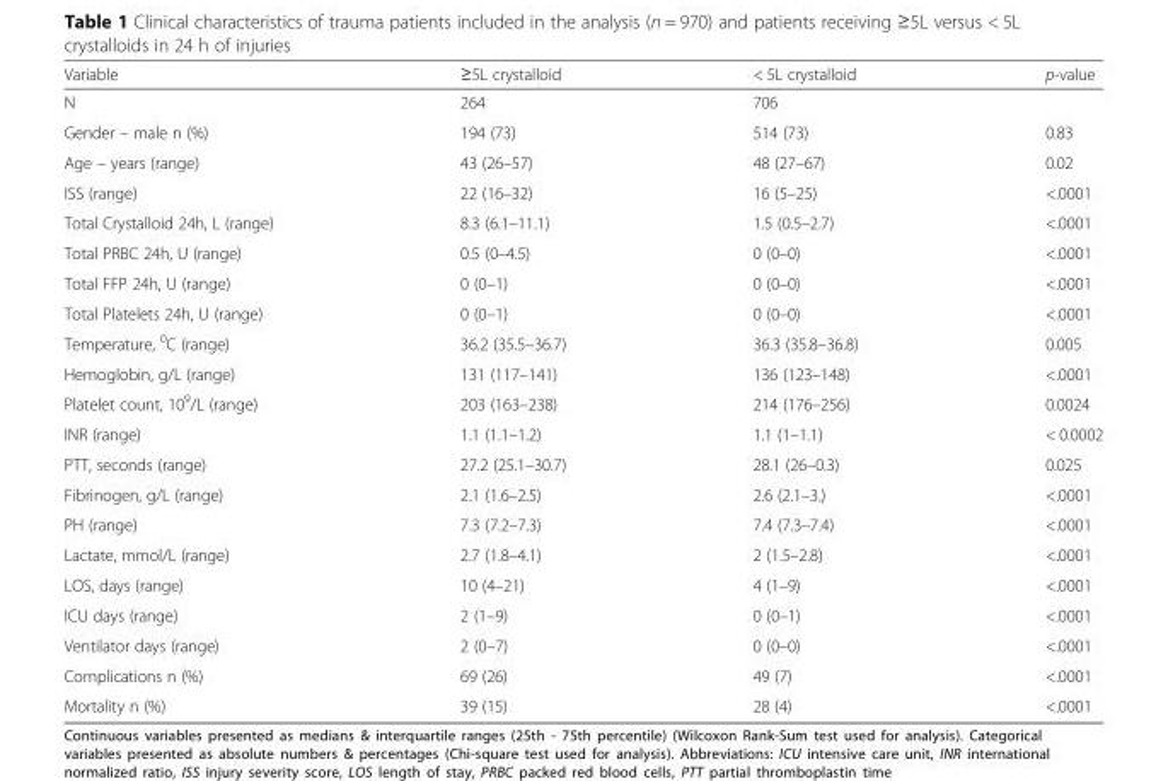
<table><thead><tr><td>Variable</td><td>≥5L crystalloid</td><td>&lt; 5L crystalloid</td><td>p-value</td></tr></thead><tbody><tr><td>N</td><td>264</td><td>706</td><td></td></tr><tr><td>Gender – male n (%)</td><td>194 (73)</td><td>514 (73)</td><td>0.83</td></tr><tr><td>Age – years (range)</td><td>43 (26–57)</td><td>48 (27–67)</td><td>0.02</td></tr><tr><td>ISS (range)</td><td>22 (16–32)</td><td>16 (5–25)</td><td>&lt;.0001</td></tr><tr><td>Total Crystalloid 24h, L (range)</td><td>8.3 (6.1–11.1)</td><td>1.5 (0.5–2.7)</td><td>&lt;.0001</td></tr><tr><td>Total PRBC 24h, U (range)</td><td>0.5 (0–4.5)</td><td>0 (0–0)</td><td>&lt;.0001</td></tr><tr><td>Total FFP 24h, U (range)</td><td>0 (0–1)</td><td>0 (0–0)</td><td>&lt;.0001</td></tr><tr><td>Total Platelets 24h, U (range)</td><td>0 (0–1)</td><td>0 (0–0)</td><td>&lt;.0001</td></tr><tr><td>Temperature, <sup>0</sup>C (range)</td><td>36.2 (35.5–36.7)</td><td>36.3 (35.8–36.8)</td><td>0.005</td></tr><tr><td>Hemoglobin, g/L (range)</td><td>131 (117–141)</td><td>136 (123–148)</td><td>&lt;.0001</td></tr><tr><td>Platelet count, 10<sup>9</sup>/L (range)</td><td>203 (163–238)</td><td>214 (176–256)</td><td>0.0024</td></tr><tr><td>INR (range)</td><td>1.1 (1.1–1.2)</td><td>1.1 (1–1.1)</td><td>&lt; 0.0002</td></tr><tr><td>PTT, seconds (range)</td><td>27.2 (25.1–30.7)</td><td>28.1 (26–0.3)</td><td>0.025</td></tr><tr><td>Fibrinogen, g/L (range)</td><td>2.1 (1.6–2.5)</td><td>2.6 (2.1–3.)</td><td>&lt;.0001</td></tr><tr><td>PH (range)</td><td>7.3 (7.2–7.3)</td><td>7.4 (7.3–7.4)</td><td>&lt;.0001</td></tr><tr><td>Lactate, mmol/L (range)</td><td>2.7 (1.8–4.1)</td><td>2 (1.5–2.8)</td><td>&lt;.0001</td></tr><tr><td>LOS, days (range)</td><td>10 (4–21)</td><td>4 (1–9)</td><td>&lt;.0001</td></tr><tr><td>ICU days (range)</td><td>2 (1–9)</td><td>0 (0–1)</td><td>&lt;.0001</td></tr><tr><td>Ventilator days (range)</td><td>2 (0–7)</td><td>0 (0–0)</td><td>&lt;.0001</td></tr><tr><td>Complications n (%)</td><td>69 (26)</td><td>49 (7)</td><td>&lt;.0001</td></tr><tr><td>Mortality n (%)</td><td>39 (15)</td><td>28 (4)</td><td>&lt;.0001</td></tr></tbody></table>